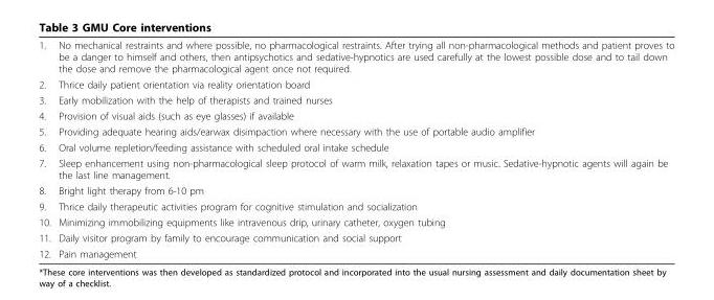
<table><tbody><tr><td>1.</td><td>No mechanical restraints and where possible, no pharmacological restraints. After trying all non-pharmacological methods and patient proves to be a danger to himself and others, then antipsychotics and sedative-hypnotics are used carefully at the lowest possible dose and to tail down the dose and remove the pharmacological agent once not required.</td></tr><tr><td>2.</td><td>Thrice daily patient orientation via reality orientation board</td></tr><tr><td>3.</td><td>Early mobilization with the help of therapists and trained nurses</td></tr><tr><td>4.</td><td>Provision of visual aids (such as eye glasses) if available</td></tr><tr><td>5.</td><td>Providing adequate hearing aids/earwax disimpaction where necessary with the use of portable audio amplifier</td></tr><tr><td>6.</td><td>Oral volume repletion/feeding assistance with scheduled oral intake schedule</td></tr><tr><td>7.</td><td>Sleep enhancement using non-pharmacological sleep protocol of warm milk, relaxation tapes or music. Sedative-hypnotic agents will again be the last line management.</td></tr><tr><td>8.</td><td>Bright light therapy from 6-10 pm</td></tr><tr><td>9.</td><td>Thrice daily therapeutic activities program for cognitive stimulation and socialization</td></tr><tr><td>10.</td><td>Minimizing immobilizing equipments like intravenous drip, urinary catheter, oxygen tubing</td></tr><tr><td>11.</td><td>Daily visitor program by family to encourage communication and social support</td></tr><tr><td>12.</td><td>Pain management</td></tr></tbody></table>